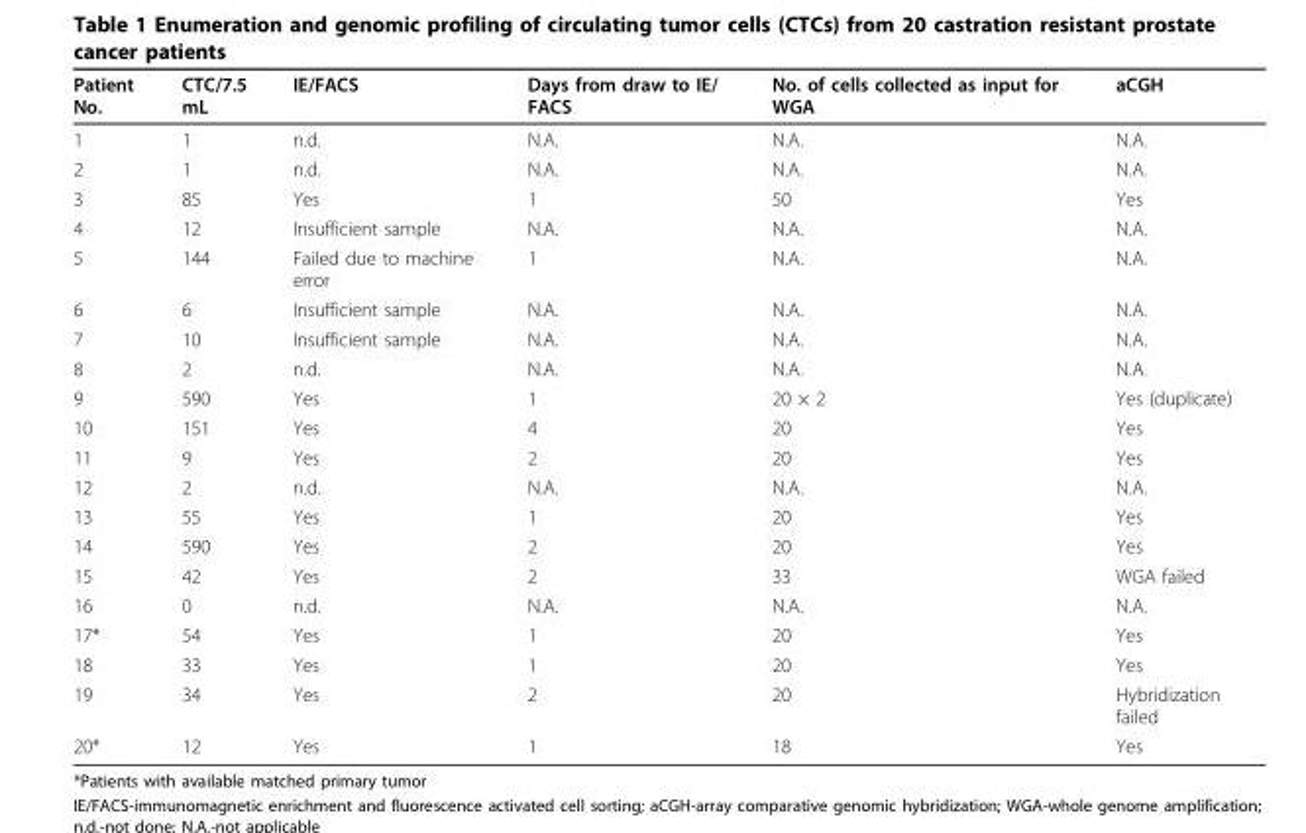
<table><thead><tr><td>Patient No.</td><td>CTC/7.5 mL</td><td>IE/FACS</td><td>Days from draw to IE/ FACS</td><td>No. of cells collected as input for WGA</td><td>aCGH</td></tr></thead><tbody><tr><td>1</td><td>1</td><td>n.d.</td><td>N.A.</td><td>N.A.</td><td>N.A.</td></tr><tr><td>2</td><td>1</td><td>n.d.</td><td>N.A.</td><td>N.A.</td><td>N.A.</td></tr><tr><td>3</td><td>85</td><td>Yes</td><td>1</td><td>50</td><td>Yes</td></tr><tr><td>4</td><td>12</td><td>Insufficient sample</td><td>N.A.</td><td>N.A.</td><td>N.A.</td></tr><tr><td>5</td><td>144</td><td>Failed due to machine error</td><td>1</td><td>N.A.</td><td>N.A.</td></tr><tr><td>6</td><td>6</td><td>Insufficient sample</td><td>N.A.</td><td>N.A.</td><td>N.A.</td></tr><tr><td>7</td><td>10</td><td>Insufficient sample</td><td>N.A.</td><td>N.A.</td><td>N.A.</td></tr><tr><td>8</td><td>2</td><td>n.d.</td><td>N.A.</td><td>N.A.</td><td>N.A.</td></tr><tr><td>9</td><td>590</td><td>Yes</td><td>1</td><td>20 × 2</td><td>Yes (duplicate)</td></tr><tr><td>10</td><td>151</td><td>Yes</td><td>4</td><td>20</td><td>Yes</td></tr><tr><td>11</td><td>9</td><td>Yes</td><td>2</td><td>20</td><td>Yes</td></tr><tr><td>12</td><td>2</td><td>n.d.</td><td>N.A.</td><td>N.A.</td><td>N.A.</td></tr><tr><td>13</td><td>55</td><td>Yes</td><td>1</td><td>20</td><td>Yes</td></tr><tr><td>14</td><td>590</td><td>Yes</td><td>2</td><td>20</td><td>Yes</td></tr><tr><td>15</td><td>42</td><td>Yes</td><td>2</td><td>33</td><td>WGA failed</td></tr><tr><td>16</td><td>0</td><td>n.d.</td><td>N.A.</td><td>N.A.</td><td>N.A.</td></tr><tr><td>17*</td><td>54</td><td>Yes</td><td>1</td><td>20</td><td>Yes</td></tr><tr><td>18</td><td>33</td><td>Yes</td><td>1</td><td>20</td><td>Yes</td></tr><tr><td>19</td><td>34</td><td>Yes</td><td>2</td><td>20</td><td>Hybridization failed</td></tr><tr><td>20*</td><td>12</td><td>Yes</td><td>1</td><td>18</td><td>Yes</td></tr></tbody></table>